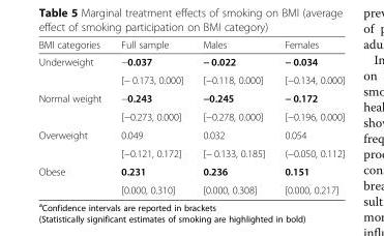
<table><thead><tr><td>BMI categories</td><td>Full sample</td><td>Males</td><td>Females</td></tr></thead><tbody><tr><td rowspan="2">Underweight</td><td>−0.037</td><td>− 0.022</td><td>− 0.034</td></tr><tr><td>[− 0.173, 0.000]</td><td>[−0.118, 0.000]</td><td>[−0.134, 0.000]</td></tr><tr><td rowspan="2">Normal weight</td><td>−0.243</td><td>−0.245</td><td>− 0.172</td></tr><tr><td>[−0.273, 0.000]</td><td>[−0.278, 0.000]</td><td>[−0.196, 0.000]</td></tr><tr><td rowspan="2">Overweight</td><td>0.049</td><td>0.032</td><td>0.054</td></tr><tr><td>[−0.121, 0.172]</td><td>[− 0.133, 0.185]</td><td>(−0.050, 0.112]</td></tr><tr><td rowspan="2">Obese</td><td>0.231</td><td>0.236</td><td>0.151</td></tr><tr><td>[0.000, 0.310]</td><td>[0.000, 0.308]</td><td>[0.000, 0.217]</td></tr></tbody></table>